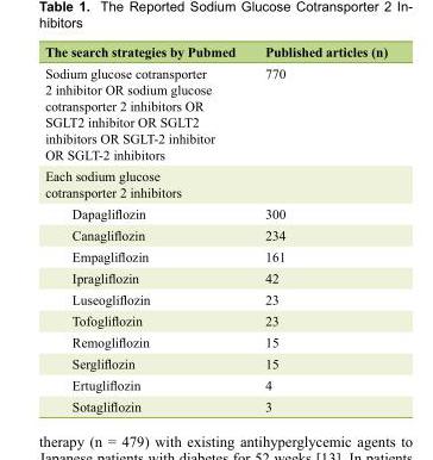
<table><thead><tr><td>The search strategies by Pubmed</td><td>Published articles (n)</td></tr></thead><tbody><tr><td>Sodium glucose cotransporter 2 inhibitor OR sodium glucose cotransporter 2 inhibitors OR SGLT2 inhibitor OR SGLT2 inhibitors OR SGLT-2 inhibitor OR SGLT-2 inhibitors</td><td>770</td></tr><tr><td colspan="2">Each sodium glucose cotransporter 2 inhibitors</td></tr><tr><td>Dapagliflozin</td><td>300</td></tr><tr><td>Canagliflozin</td><td>234</td></tr><tr><td>Empagliflozin</td><td>161</td></tr><tr><td>Ipragliflozin</td><td>42</td></tr><tr><td>Luseogliflozin</td><td>23</td></tr><tr><td>Tofogliflozin</td><td>23</td></tr><tr><td>Remogliflozin</td><td>15</td></tr><tr><td>Sergliflozin</td><td>15</td></tr><tr><td>Ertugliflozin</td><td>4</td></tr><tr><td>Sotagliflozin</td><td>3</td></tr></tbody></table>